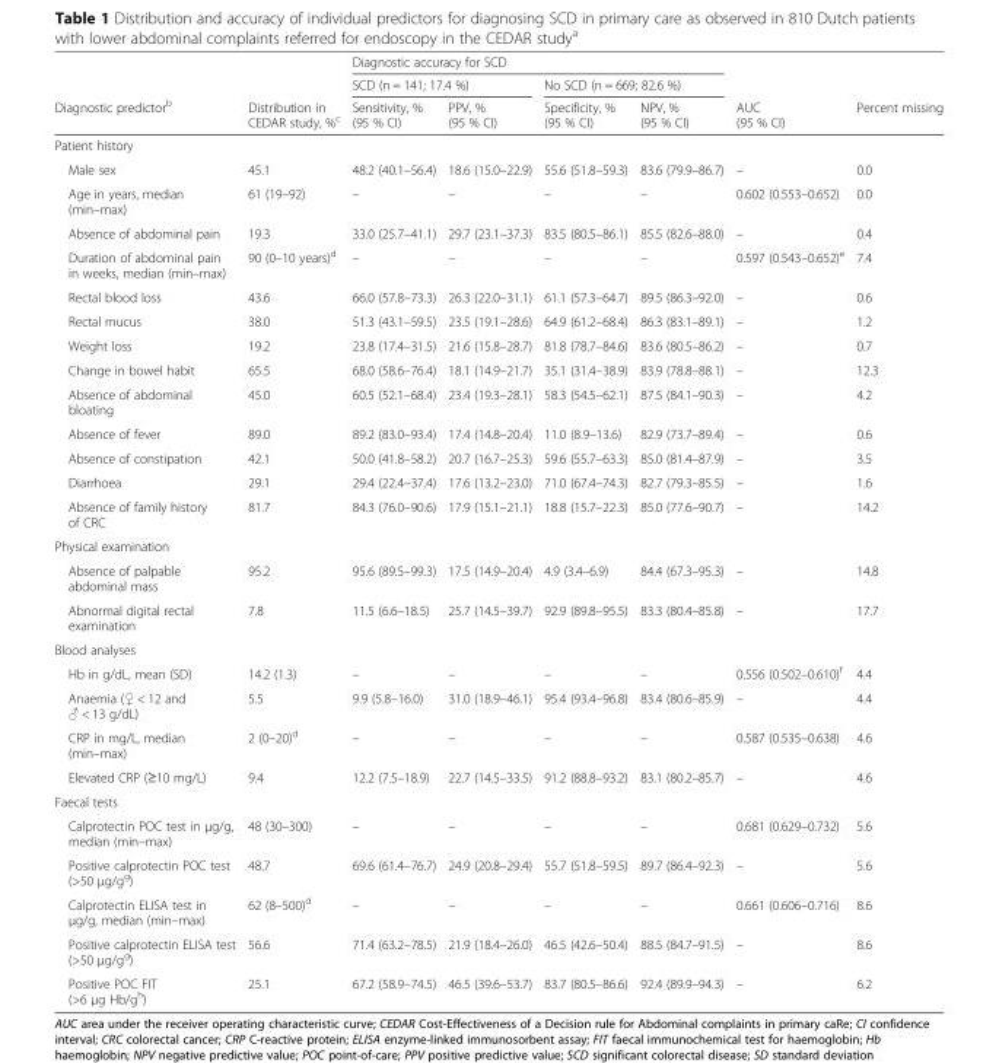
<table><thead><tr><td rowspan="3">Diagnostic predictor<sup>b</sup></td><td rowspan="3">Distribution in CEDAR study, %<sup>c</sup></td><td colspan="4">Diagnostic accuracy for SCD</td><td rowspan="3">AUC (95 % CI)</td><td rowspan="3">Percent missing</td></tr><tr><td colspan="2">SCD (n = 141; 17.4 %)</td><td colspan="2">No SCD (n = 669; 82.6 %)</td></tr><tr><td>Sensitivity, % (95 % CI)</td><td>PPV, % (95 % CI)</td><td>Specificity, % (95 % CI)</td><td>NPV, % (95 % CI)</td></tr></thead><tbody><tr><td colspan="8">Patient history</td></tr><tr><td>Male sex</td><td>45.1</td><td>48.2 (40.1–56.4)</td><td>18.6 (15.0–22.9)</td><td>55.6 (51.8–59.3)</td><td>83.6 (79.9–86.7)</td><td>–</td><td>0.0</td></tr><tr><td>Age in years, median (min–max)</td><td>61 (19–92)</td><td>–</td><td>–</td><td>–</td><td>–</td><td>0.602 (0.553–0.652)</td><td>0.0</td></tr><tr><td>Absence of abdominal pain</td><td>19.3</td><td>33.0 (25.7–41.1)</td><td>29.7 (23.1–37.3)</td><td>83.5 (80.5–86.1)</td><td>85.5 (82.6–88.0)</td><td>–</td><td>0.4</td></tr><tr><td>Duration of abdominal pain in weeks, median (min–max)</td><td>90 (0–10 years)<sup>d</sup></td><td>–</td><td>–</td><td>–</td><td>–</td><td>0.597 (0.543–0.652)<sup>e</sup></td><td>7.4</td></tr><tr><td>Rectal blood loss</td><td>43.6</td><td>66.0 (57.8–73.3)</td><td>26.3 (22.0–31.1)</td><td>61.1 (57.3–64.7)</td><td>89.5 (86.3–92.0)</td><td>–</td><td>0.6</td></tr><tr><td>Rectal mucus</td><td>38.0</td><td>51.3 (43.1–59.5)</td><td>23.5 (19.1–28.6)</td><td>64.9 (61.2–68.4)</td><td>86.3 (83.1–89.1)</td><td>–</td><td>1.2</td></tr><tr><td>Weight loss</td><td>19.2</td><td>23.8 (17.4–31.5)</td><td>21.6 (15.8–28.7)</td><td>81.8 (78.7–84.6)</td><td>83.6 (80.5–86.2)</td><td>–</td><td>0.7</td></tr><tr><td>Change in bowel habit</td><td>65.5</td><td>68.0 (58.6–76.4)</td><td>18.1 (14.9–21.7)</td><td>35.1 (31.4–38.9)</td><td>83.9 (78.8–88.1)</td><td>–</td><td>12.3</td></tr><tr><td>Absence of abdominal bloating</td><td>45.0</td><td>60.5 (52.1–68.4)</td><td>23.4 (19.3–28.1)</td><td>58.3 (54.5–62.1)</td><td>87.5 (84.1–90.3)</td><td>–</td><td>4.2</td></tr><tr><td>Absence of fever</td><td>89.0</td><td>89.2 (83.0–93.4)</td><td>17.4 (14.8–20.4)</td><td>11.0 (8.9–13.6)</td><td>82.9 (73.7–89.4)</td><td>–</td><td>0.6</td></tr><tr><td>Absence of constipation</td><td>42.1</td><td>50.0 (41.8–58.2)</td><td>20.7 (16.7–25.3)</td><td>59.6 (55.7–63.3)</td><td>85.0 (81.4–87.9)</td><td>–</td><td>3.5</td></tr><tr><td>Diarrhoea</td><td>29.1</td><td>29.4 (22.4–37.4)</td><td>17.6 (13.2–23.0)</td><td>71.0 (67.4–74.3)</td><td>82.7 (79.3–85.5)</td><td>–</td><td>1.6</td></tr><tr><td>Absence of family history of CRC</td><td>81.7</td><td>84.3 (76.0–90.6)</td><td>17.9 (15.1–21.1)</td><td>18.8 (15.7–22.3)</td><td>85.0 (77.6–90.7)</td><td>–</td><td>14.2</td></tr><tr><td colspan="8">Physical examination</td></tr><tr><td>Absence of palpable abdominal mass</td><td>95.2</td><td>95.6 (89.5–99.3)</td><td>17.5 (14.9–20.4)</td><td>4.9 (3.4–6.9)</td><td>84.4 (67.3–95.3)</td><td>–</td><td>14.8</td></tr><tr><td>Abnormal digital rectal examination</td><td>7.8</td><td>11.5 (6.6–18.5)</td><td>25.7 (14.5–39.7)</td><td>92.9 (89.8–95.5)</td><td>83.3 (80.4–85.8)</td><td>–</td><td>17.7</td></tr><tr><td colspan="8">Blood analyses</td></tr><tr><td>Hb in g/dL, mean (SD)</td><td>14.2 (1.3)</td><td>–</td><td>–</td><td>–</td><td>–</td><td>0.556 (0.502–0.610)<sup>f</sup></td><td>4.4</td></tr><tr><td>Anaemia (♀ &lt; 12 and ♂ &lt; 13 g/dL)</td><td>5.5</td><td>9.9 (5.8–16.0)</td><td>31.0 (18.9–46.1)</td><td>95.4 (93.4–96.8)</td><td>83.4 (80.6–85.9)</td><td>–</td><td>4.4</td></tr><tr><td>CRP in mg/L, median (min–max)</td><td>2 (0–20)<sup>d</sup></td><td>–</td><td>–</td><td>–</td><td>–</td><td>0.587 (0.535–0.638)</td><td>4.6</td></tr><tr><td>Elevated CRP (≥10 mg/L)</td><td>9.4</td><td>12.2 (7.5–18.9)</td><td>22.7 (14.5–33.5)</td><td>91.2 (88.8–93.2)</td><td>83.1 (80.2–85.7)</td><td>–</td><td>4.6</td></tr><tr><td colspan="8">Faecal tests</td></tr><tr><td>Calprotectin POC test in μg/g, median (min–max)</td><td>48 (30–300)</td><td>–</td><td>–</td><td>–</td><td>–</td><td>0.681 (0.629–0.732)</td><td>5.6</td></tr><tr><td>Positive calprotectin POC test (&gt;50 μg/g<sup>g</sup>)</td><td>48.7</td><td>69.6 (61.4–76.7)</td><td>24.9 (20.8–29.4)</td><td>55.7 (51.8–59.5)</td><td>89.7 (86.4–92.3)</td><td>–</td><td>5.6</td></tr><tr><td>Calprotectin ELISA test in μg/g, median (min–max)</td><td>62 (8–500)<sup>d</sup></td><td>–</td><td>–</td><td>–</td><td>–</td><td>0.661 (0.606–0.716)</td><td>8.6</td></tr><tr><td>Positive calprotectin ELISA test (&gt;50 μg/g<sup>g</sup>)</td><td>56.6</td><td>71.4 (63.2–78.5)</td><td>21.9 (18.4–26.0)</td><td>46.5 (42.6–50.4)</td><td>88.5 (84.7–91.5)</td><td>–</td><td>8.6</td></tr><tr><td>Positive POC FIT (&gt;6 μg Hb/g<sup>h</sup>)</td><td>25.1</td><td>67.2 (58.9–74.5)</td><td>46.5 (39.6–53.7)</td><td>83.7 (80.5–86.6)</td><td>92.4 (89.9–94.3)</td><td>–</td><td>6.2</td></tr></tbody></table>